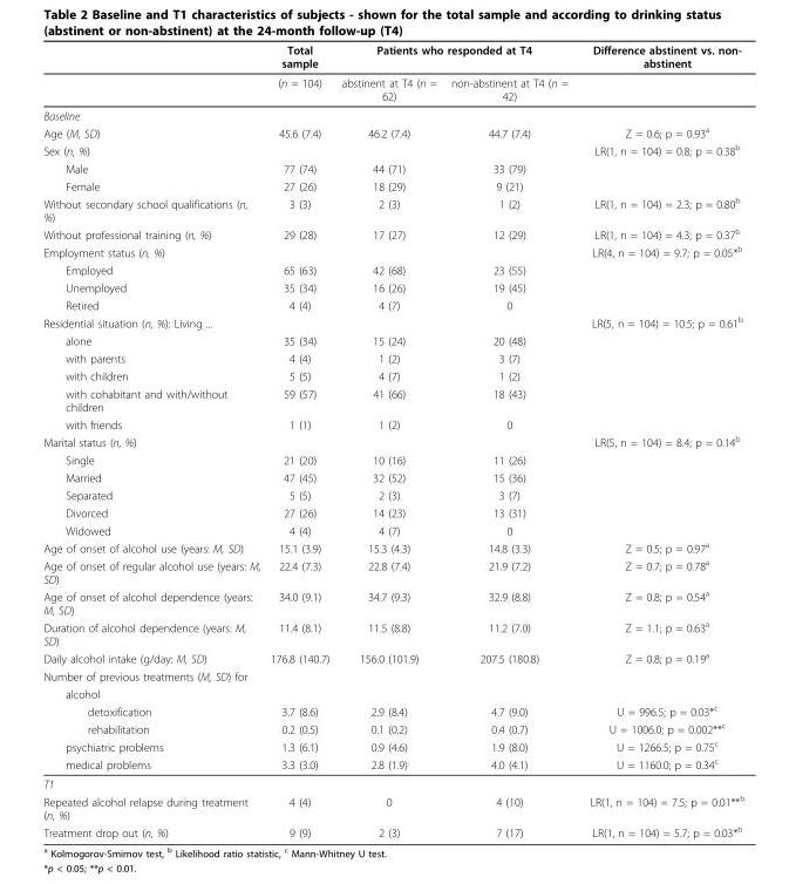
<table><thead><tr><td rowspan="2"></td><td rowspan="2">Total sample (n = 104)</td><td colspan="2">Patients who responded at T4</td><td rowspan="2">Difference abstinent vs. non- abstinent</td></tr><tr><td>abstinent at T4 (n = 62)</td><td>non-abstinent at T4 (n = 42)</td></tr></thead><tbody><tr><td colspan="5">Baseline</td></tr><tr><td>Age (M, SD)</td><td>45.6 (7.4)</td><td>46.2 (7.4)</td><td>44.7 (7.4)</td><td>Z = 0.6; p = 0.93<sup>a</sup></td></tr><tr><td>Sex (n, %)</td><td></td><td></td><td></td><td>LR(1, n = 104) = 0.8; p = 0.38<sup>b</sup></td></tr><tr><td>Male</td><td>77 (74)</td><td>44 (71)</td><td>33 (79)</td><td></td></tr><tr><td>Female</td><td>27 (26)</td><td>18 (29)</td><td>9 (21)</td><td></td></tr><tr><td>Without secondary school qualifications (n, %)</td><td>3 (3)</td><td>2 (3)</td><td>1 (2)</td><td>LR(1, n = 104) = 2.3; p = 0.80<sup>b</sup></td></tr><tr><td>Without professional training (n, %)</td><td>29 (28)</td><td>17 (27)</td><td>12 (29)</td><td>LR(1, n = 104) = 4.3; p = 0.37<sup>b</sup></td></tr><tr><td>Employment status (n, %)</td><td></td><td></td><td></td><td>LR(4, n = 104) = 9.7; p = 0.05*<sup>b</sup></td></tr><tr><td>Employed</td><td>65 (63)</td><td>42 (68)</td><td>23 (55)</td><td></td></tr><tr><td>Unemployed</td><td>35 (34)</td><td>16 (26)</td><td>19 (45)</td><td></td></tr><tr><td>Retired</td><td>4 (4)</td><td>4 (7)</td><td>0</td><td></td></tr><tr><td>Residential situation (n, %): Living ...</td><td></td><td></td><td></td><td>LR(5, n = 104) = 10.5; p = 0.61<sup>b</sup></td></tr><tr><td>alone</td><td>35 (34)</td><td>15 (24)</td><td>20 (48)</td><td></td></tr><tr><td>with parents</td><td>4 (4)</td><td>1 (2)</td><td>3 (7)</td><td></td></tr><tr><td>with children</td><td>5 (5)</td><td>4 (7)</td><td>1 (2)</td><td></td></tr><tr><td>with cohabitant and with/without children</td><td>59 (57)</td><td>41 (66)</td><td>18 (43)</td><td></td></tr><tr><td>with friends</td><td>1 (1)</td><td>1 (2)</td><td>0</td><td></td></tr><tr><td>Marital status (n, %)</td><td></td><td></td><td></td><td>LR(5, n = 104) = 8.4; p = 0.14<sup>b</sup></td></tr><tr><td>Single</td><td>21 (20)</td><td>10 (16)</td><td>11 (26)</td><td></td></tr><tr><td>Married</td><td>47 (45)</td><td>32 (52)</td><td>15 (36)</td><td></td></tr><tr><td>Separated</td><td>5 (5)</td><td>2 (3)</td><td>3 (7)</td><td></td></tr><tr><td>Divorced</td><td>27 (26)</td><td>14 (23)</td><td>13 (31)</td><td></td></tr><tr><td>Widowed</td><td>4 (4)</td><td>4 (7)</td><td>0</td><td></td></tr><tr><td>Age of onset of alcohol use (years: M, SD)</td><td>15.1 (3.9)</td><td>15.3 (4.3)</td><td>14.8 (3.3)</td><td>Z = 0.5; p = 0.97<sup>a</sup></td></tr><tr><td>Age of onset of regular alcohol use (years: M, SD)</td><td>22.4 (7.3)</td><td>22.8 (7.4)</td><td>21.9 (7.2)</td><td>Z = 0.7; p = 0.78<sup>a</sup></td></tr><tr><td>Age of onset of alcohol dependence (years: M, SD)</td><td>34.0 (9.1)</td><td>34.7 (9.3)</td><td>32.9 (8.8)</td><td>Z = 0.8; p = 0.54<sup>a</sup></td></tr><tr><td>Duration of alcohol dependence (years: M, SD)</td><td>11.4 (8.1)</td><td>11.5 (8.8)</td><td>11.2 (7.0)</td><td>Z = 1.1; p = 0.63<sup>a</sup></td></tr><tr><td>Daily alcohol intake (g/day: M, SD)</td><td>176.8 (140.7)</td><td>156.0 (101.9)</td><td>207.5 (180.8)</td><td>Z = 0.8; p = 0.19<sup>a</sup></td></tr><tr><td colspan="5">Number of previous treatments (M, SD) for</td></tr><tr><td colspan="5">alcohol</td></tr><tr><td>detoxification</td><td>3.7 (8.6)</td><td>2.9 (8.4)</td><td>4.7 (9.0)</td><td>U = 996.5; p = 0.03*<sup>c</sup></td></tr><tr><td>rehabilitation</td><td>0.2 (0.5)</td><td>0.1 (0.2)</td><td>0.4 (0.7)</td><td>U = 1006.0; p = 0.002**<sup>c</sup></td></tr><tr><td>psychiatric problems</td><td>1.3 (6.1)</td><td>0.9 (4.6)</td><td>1.9 (8.0)</td><td>U = 1266.5; p = 0.75<sup>c</sup></td></tr><tr><td>medical problems</td><td>3.3 (3.0)</td><td>2.8 (1.9)</td><td>4.0 (4.1)</td><td>U = 1160.0; p = 0.34<sup>c</sup></td></tr><tr><td colspan="5">T1</td></tr><tr><td>Repeated alcohol relapse during treatment (n, %)</td><td>4 (4)</td><td>0</td><td>4 (10)</td><td>LR(1, n = 104) = 7.5; p = 0.01**<sup>b</sup></td></tr><tr><td>Treatment drop out (n, %)</td><td>9 (9)</td><td>2 (3)</td><td>7 (17)</td><td>LR(1, n = 104) = 5.7; p = 0.03*<sup>b</sup></td></tr></tbody></table>